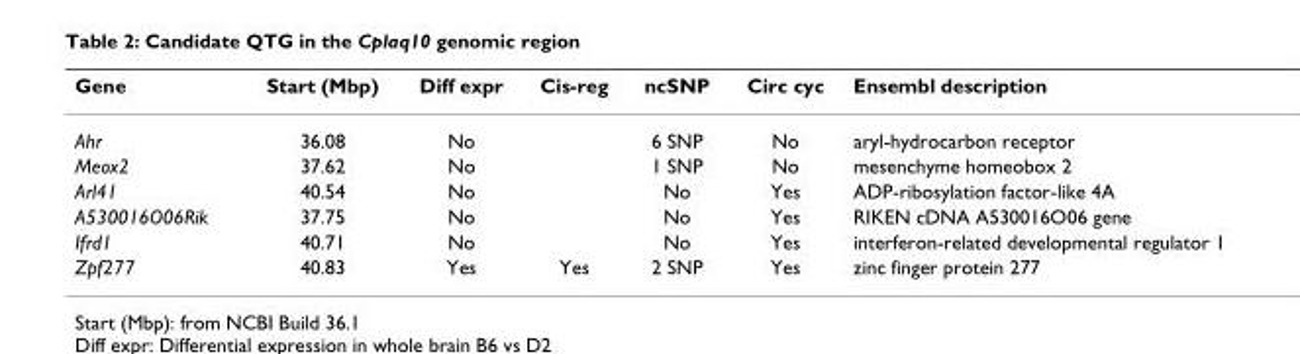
<table><thead><tr><td>Gene</td><td>Start (Mbp)</td><td>Diff expr</td><td>Cis-reg</td><td>ncSNP</td><td>Circ cyc</td><td>Ensembl description</td></tr></thead><tbody><tr><td>Ahr</td><td>36.08</td><td>No</td><td></td><td>6 SNP</td><td>No</td><td>aryl-hydrocarbon receptor</td></tr><tr><td>Meox2</td><td>37.62</td><td>No</td><td></td><td>1 SNP</td><td>No</td><td>mesenchyme homeobox 2</td></tr><tr><td>Arl41</td><td>40.54</td><td>No</td><td></td><td>No</td><td>Yes</td><td>ADP-ribosylation factor-like 4A</td></tr><tr><td>A530016O06Rik</td><td>37.75</td><td>No</td><td></td><td>No</td><td>Yes</td><td>RIKEN cDNA A530016O06 gene</td></tr><tr><td>Ifrd1</td><td>40.71</td><td>No</td><td></td><td>No</td><td>Yes</td><td>interferon-related developmental regulator 1</td></tr><tr><td>Zpf277</td><td>40.83</td><td>Yes</td><td>Yes</td><td>2 SNP</td><td>Yes</td><td>zinc finger protein 277</td></tr></tbody></table>